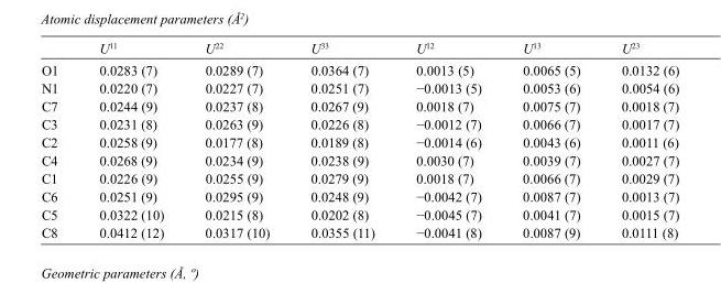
<table><thead><tr><td></td><td>U<sup>11</sup></td><td>U<sup>22</sup></td><td>U<sup>33</sup></td><td>U<sup>12</sup></td><td>U<sup>13</sup></td><td>U<sup>23</sup></td></tr></thead><tbody><tr><td>O1</td><td>0.0283 (7)</td><td>0.0289 (7)</td><td>0.0364 (7)</td><td>0.0013 (5)</td><td>0.0065 (5)</td><td>0.0132 (6)</td></tr><tr><td>N1</td><td>0.0220 (7)</td><td>0.0227 (7)</td><td>0.0251 (7)</td><td>−0.0013 (5)</td><td>0.0053 (6)</td><td>0.0054 (6)</td></tr><tr><td>C7</td><td>0.0244 (9)</td><td>0.0237 (8)</td><td>0.0267 (9)</td><td>0.0018 (7)</td><td>0.0075 (7)</td><td>0.0018 (7)</td></tr><tr><td>C3</td><td>0.0231 (8)</td><td>0.0263 (9)</td><td>0.0226 (8)</td><td>−0.0012 (7)</td><td>0.0066 (7)</td><td>0.0017 (7)</td></tr><tr><td>C2</td><td>0.0258 (9)</td><td>0.0177 (8)</td><td>0.0189 (8)</td><td>−0.0014 (6)</td><td>0.0043 (6)</td><td>0.0011 (6)</td></tr><tr><td>C4</td><td>0.0268 (9)</td><td>0.0234 (9)</td><td>0.0238 (9)</td><td>0.0030 (7)</td><td>0.0039 (7)</td><td>0.0027 (7)</td></tr><tr><td>C1</td><td>0.0226 (9)</td><td>0.0255 (9)</td><td>0.0279 (9)</td><td>0.0018 (7)</td><td>0.0066 (7)</td><td>0.0029 (7)</td></tr><tr><td>C6</td><td>0.0251 (9)</td><td>0.0295 (9)</td><td>0.0248 (9)</td><td>−0.0042 (7)</td><td>0.0087 (7)</td><td>0.0013 (7)</td></tr><tr><td>C5</td><td>0.0322 (10)</td><td>0.0215 (8)</td><td>0.0202 (8)</td><td>−0.0045 (7)</td><td>0.0041 (7)</td><td>0.0015 (7)</td></tr><tr><td>C8</td><td>0.0412 (12)</td><td>0.0317 (10)</td><td>0.0355 (11)</td><td>−0.0041 (8)</td><td>0.0087 (9)</td><td>0.0111 (8)</td></tr></tbody></table>